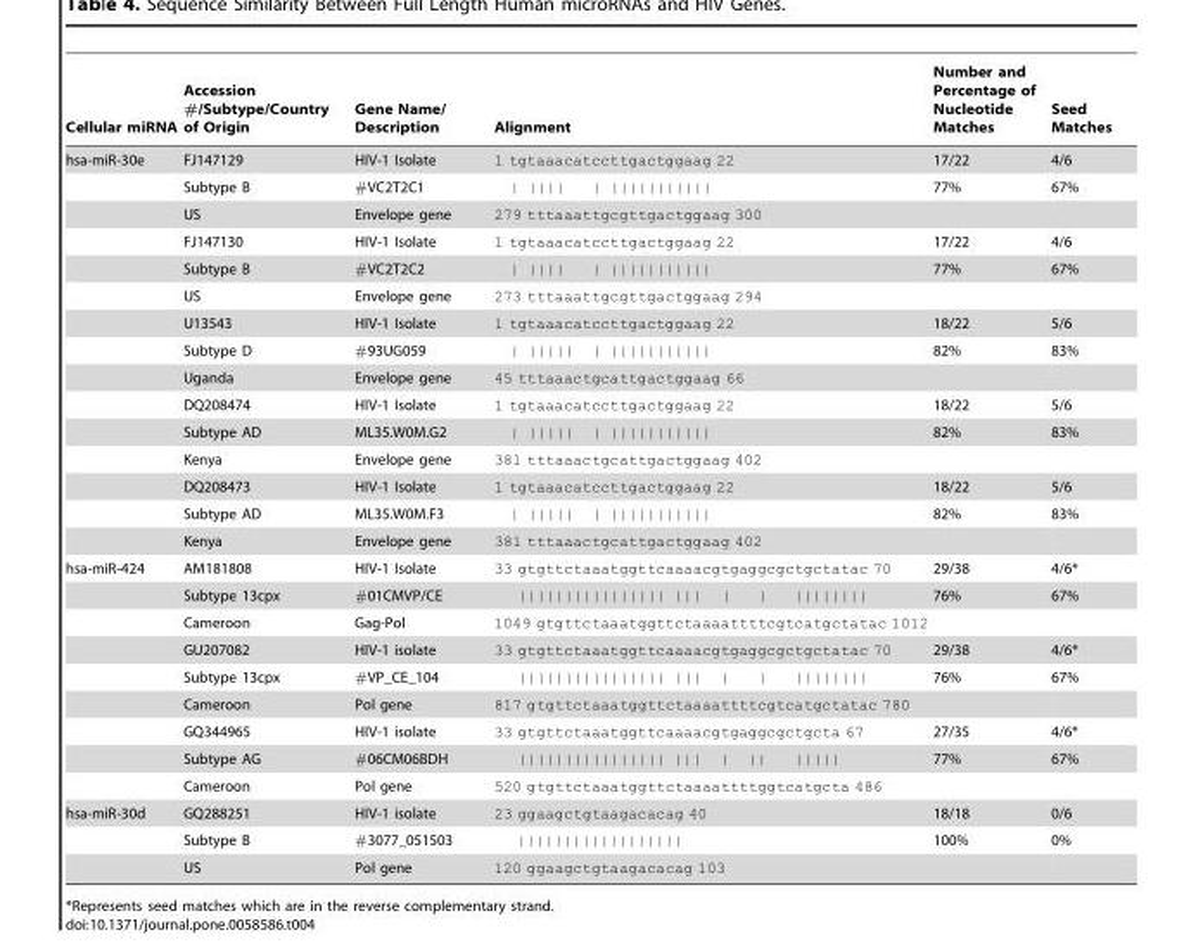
<table><thead><tr><td>Cellular miRNA</td><td>Accession #/Subtype/Country of Origin</td><td>Gene Name/ Description</td><td>Alignment</td><td>Number and Percentage of Nucleotide Matches</td><td>Seed Matches</td></tr></thead><tbody><tr><td rowspan="15">hsa-miR-30e</td><td>FJ147129</td><td>HIV-1 Isolate</td><td>1 tgtaaacatccttgactggaag 22</td><td>17/22</td><td>4/6</td></tr><tr><td>Subtype B</td><td>#VC2T2C1</td><td>| |||| | |||||||||||</td><td>77%</td><td>67%</td></tr><tr><td>US</td><td>Envelope gene</td><td>279 tttaaattgcgttgactggaag 300</td><td></td><td></td></tr><tr><td>FJ147130</td><td>HIV-1 Isolate</td><td>1 tgtaaacatccttgactggaag 22</td><td>17/22</td><td>4/6</td></tr><tr><td>Subtype B</td><td>#VC2T2C2</td><td>| |||| | |||||||||||</td><td>77%</td><td>67%</td></tr><tr><td>US</td><td>Envelope gene</td><td>273 tttaaattgcgttgactggaag 294</td><td></td><td></td></tr><tr><td>U13543</td><td>HIV-1 Isolate</td><td>1 tgtaaacatccttgactggaag 22</td><td>18/22</td><td>5/6</td></tr><tr><td>Subtype D</td><td>#93UG059</td><td>| ||||| | |||||||||||</td><td>82%</td><td>83%</td></tr><tr><td>Uganda</td><td>Envelope gene</td><td>45 tttaaactgcattgactggaag 66</td><td></td><td></td></tr><tr><td>DQ208474</td><td>HIV-1 Isolate</td><td>1 tgtaaacatccttgactggaag 22</td><td>18/22</td><td>5/6</td></tr><tr><td>Subtype AD</td><td>ML35.W0M.G2</td><td>| ||||| | |||||||||||</td><td>82%</td><td>83%</td></tr><tr><td>Kenya</td><td>Envelope gene</td><td>381 tttaaactgcattgactggaag 402</td><td></td><td></td></tr><tr><td>DQ208473</td><td>HIV-1 Isolate</td><td>1 tgtaaacatccttgactggaag 22</td><td>18/22</td><td>5/6</td></tr><tr><td>Subtype AD</td><td>ML35.W0M.F3</td><td>| ||||| | |||||||||||</td><td>82%</td><td>83%</td></tr><tr><td>Kenya</td><td>Envelope gene</td><td>381 tttaaactgcattgactggaag 402</td><td></td><td></td></tr><tr><td rowspan="9">hsa-miR-424</td><td>AM181808</td><td>HIV-1 Isolate</td><td>33 gtgttctaaatggttcaaaacgtgaggcgctgctatac 70</td><td>29/38</td><td>4/6*</td></tr><tr><td>Subtype 13cpx</td><td>#01CMVP/CE</td><td>|||||||||||||||| ||| | | ||||||||</td><td>76%</td><td>67%</td></tr><tr><td>Cameroon</td><td>Gag-Pol</td><td>1049 gtgttctaaatggttctaaaattttcgtcatgctatac 1012</td><td></td><td></td></tr><tr><td>GU207082</td><td>HIV-1 isolate</td><td>33 gtgttctaaatggttcaaaacgtgaggcgctgctatac 70</td><td>29/38</td><td>4/6*</td></tr><tr><td>Subtype 13cpx</td><td>#VP_CE_104</td><td>|||||||||||||||| ||| | | ||||||||</td><td>76%</td><td>67%</td></tr><tr><td>Cameroon</td><td>Pol gene</td><td>817 gtgttctaaatggttctaaaattttcgtcatgctatac 780</td><td></td><td></td></tr><tr><td>GQ344965</td><td>HIV-1 isolate</td><td>33 gtgttctaaatggttcaaaacgtgaggcgctgcta 67</td><td>27/35</td><td>4/6*</td></tr><tr><td>Subtype AG</td><td>#06CM06BDH</td><td>|||||||||||||||| ||| | || |||||</td><td>77%</td><td>67%</td></tr><tr><td>Cameroon</td><td>Pol gene</td><td>520 gtgttctaaatggttctaaaattttggtcatgcta 486</td><td></td><td></td></tr><tr><td rowspan="3">hsa-miR-30d</td><td>GQ288251</td><td>HIV-1 isolate</td><td>23 ggaagctgtaagacacag 40</td><td>18/18</td><td>0/6</td></tr><tr><td>Subtype B</td><td>#3077_051503</td><td>||||||||||||||||||</td><td>100%</td><td>0%</td></tr><tr><td>US</td><td>Pol gene</td><td>120 ggaagctgtaagacacag 103</td><td></td><td></td></tr></tbody></table>